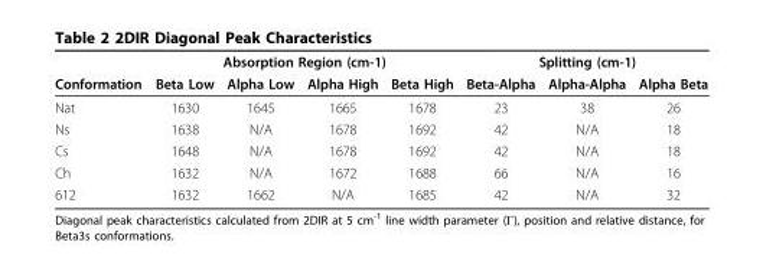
<table><thead><tr><td rowspan="2">Conformation</td><td colspan="4">Absorption Region (cm-1)</td><td colspan="3">Splitting (cm-1)</td></tr><tr><td>Beta Low</td><td>Alpha Low</td><td>Alpha High</td><td>Beta High</td><td>Beta-Alpha</td><td>Alpha-Alpha</td><td>Alpha Beta</td></tr></thead><tbody><tr><td>Nat</td><td>1630</td><td>1645</td><td>1665</td><td>1678</td><td>23</td><td>38</td><td>26</td></tr><tr><td>Ns</td><td>1638</td><td>N/A</td><td>1678</td><td>1692</td><td>42</td><td>N/A</td><td>18</td></tr><tr><td>Cs</td><td>1648</td><td>N/A</td><td>1678</td><td>1692</td><td>42</td><td>N/A</td><td>18</td></tr><tr><td>Ch</td><td>1632</td><td>N/A</td><td>1672</td><td>1688</td><td>66</td><td>N/A</td><td>16</td></tr><tr><td>612</td><td>1632</td><td>1662</td><td>N/A</td><td>1685</td><td>42</td><td>N/A</td><td>32</td></tr></tbody></table>